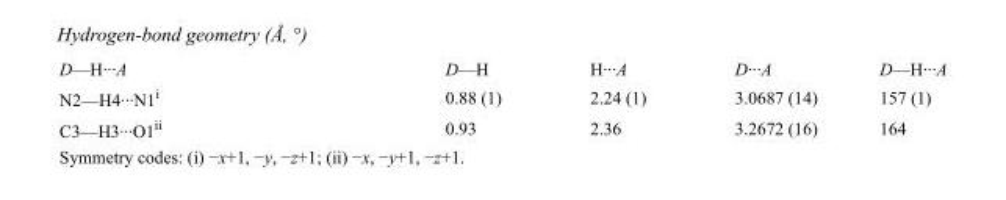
<table><tbody><tr><td>D—H···A</td><td>D—H</td><td>H···A</td><td>D···A</td><td>D—H···A</td></tr><tr><td>N2—H4···N1<sup>i</sup></td><td>0.88 (1)</td><td>2.24 (1)</td><td>3.0687 (14)</td><td>157 (1)</td></tr><tr><td>C3—H3···O1<sup>ii</sup></td><td>0.93</td><td>2.36</td><td>3.2672 (16)</td><td>164</td></tr></tbody></table>